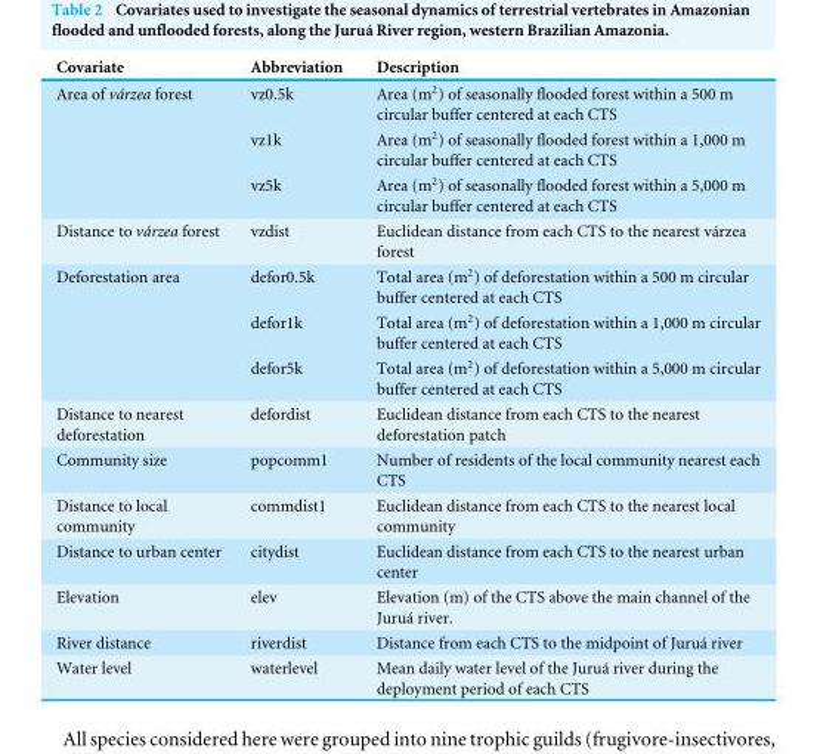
<table><thead><tr><td>Covariate</td><td>Abbreviation</td><td>Description</td></tr></thead><tbody><tr><td rowspan="3">Area of várzea forest</td><td>vz0.5k</td><td>Area (m<sup>2</sup>) of seasonally flooded forest within a 500 m circular buffer centered at each CTS</td></tr><tr><td>vz1k</td><td>Area (m<sup>2</sup>) of seasonally flooded forest within a 1,000 m circular buffer centered at each CTS</td></tr><tr><td>vz5k</td><td>Area (m<sup>2</sup>) of seasonally flooded forest within a 5,000 m circular buffer centered at each CTS</td></tr><tr><td>Distance to várzea forest</td><td>vzdist</td><td>Euclidean distance from each CTS to the nearest várzea forest</td></tr><tr><td rowspan="3">Deforestation area</td><td>defor0.5k</td><td>Total area (m<sup>2</sup>) of deforestation within a 500 m circular buffer centered at each CTS</td></tr><tr><td>defor1k</td><td>Total area (m<sup>2</sup>) of deforestation within a 1,000 m circular buffer centered at each CTS</td></tr><tr><td>defor5k</td><td>Total area (m<sup>2</sup>) of deforestation within a 5,000 m circular buffer centered at each CTS</td></tr><tr><td>Distance to nearest deforestation</td><td>defordist</td><td>Euclidean distance from each CTS to the nearest deforestation patch</td></tr><tr><td>Community size</td><td>popcomm1</td><td>Number of residents of the local community nearest each CTS</td></tr><tr><td>Distance to local community</td><td>commdist1</td><td>Euclidean distance from each CTS to the nearest local community</td></tr><tr><td>Distance to urban center</td><td>citydist</td><td>Euclidean distance from each CTS to the nearest urban center</td></tr><tr><td>Elevation</td><td>elev</td><td>Elevation (m) of the CTS above the main channel of the Juruá river.</td></tr><tr><td>River distance</td><td>riverdist</td><td>Distance from each CTS to the midpoint of Juruá river</td></tr><tr><td>Water level</td><td>waterlevel</td><td>Mean daily water level of the Juruá river during the deployment period of each CTS</td></tr></tbody></table>